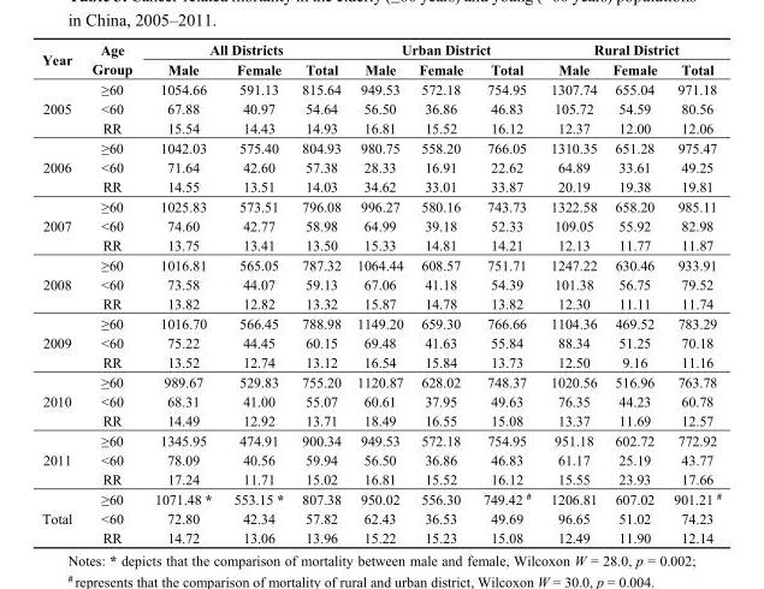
<table><thead><tr><td rowspan="2">Year</td><td rowspan="2">Age Group</td><td colspan="3">All Districts</td><td colspan="3">Urban District</td><td colspan="3">Rural District</td></tr><tr><td>Male</td><td>Female</td><td>Total</td><td>Male</td><td>Female</td><td>Total</td><td>Male</td><td>Female</td><td>Total</td></tr></thead><tbody><tr><td rowspan="3">2005</td><td>≥60</td><td>1054.66</td><td>591.13</td><td>815.64</td><td>949.53</td><td>572.18</td><td>754.95</td><td>1307.74</td><td>655.04</td><td>971.18</td></tr><tr><td>&lt;60</td><td>67.88</td><td>40.97</td><td>54.64</td><td>56.50</td><td>36.86</td><td>46.83</td><td>105.72</td><td>54.59</td><td>80.56</td></tr><tr><td>RR</td><td>15.54</td><td>14.43</td><td>14.93</td><td>16.81</td><td>15.52</td><td>16.12</td><td>12.37</td><td>12.00</td><td>12.06</td></tr><tr><td rowspan="3">2006</td><td>≥60</td><td>1042.03</td><td>575.40</td><td>804.93</td><td>980.75</td><td>558.20</td><td>766.05</td><td>1310.35</td><td>651.28</td><td>975.47</td></tr><tr><td>&lt;60</td><td>71.64</td><td>42.60</td><td>57.38</td><td>28.33</td><td>16.91</td><td>22.62</td><td>64.89</td><td>33.61</td><td>49.25</td></tr><tr><td>RR</td><td>14.55</td><td>13.51</td><td>14.03</td><td>34.62</td><td>33.01</td><td>33.87</td><td>20.19</td><td>19.38</td><td>19.81</td></tr><tr><td rowspan="3">2007</td><td>≥60</td><td>1025.83</td><td>573.51</td><td>796.08</td><td>996.27</td><td>580.16</td><td>743.73</td><td>1322.58</td><td>658.20</td><td>985.11</td></tr><tr><td>&lt;60</td><td>74.60</td><td>42.77</td><td>58.98</td><td>64.99</td><td>39.18</td><td>52.33</td><td>109.05</td><td>55.92</td><td>82.98</td></tr><tr><td>RR</td><td>13.75</td><td>13.41</td><td>13.50</td><td>15.33</td><td>14.81</td><td>14.21</td><td>12.13</td><td>11.77</td><td>11.87</td></tr><tr><td rowspan="3">2008</td><td>≥60</td><td>1016.81</td><td>565.05</td><td>787.32</td><td>1064.44</td><td>608.57</td><td>751.71</td><td>1247.22</td><td>630.46</td><td>933.91</td></tr><tr><td>&lt;60</td><td>73.58</td><td>44.07</td><td>59.13</td><td>67.06</td><td>41.18</td><td>54.39</td><td>101.38</td><td>56.75</td><td>79.52</td></tr><tr><td>RR</td><td>13.82</td><td>12.82</td><td>13.32</td><td>15.87</td><td>14.78</td><td>13.82</td><td>12.30</td><td>11.11</td><td>11.74</td></tr><tr><td rowspan="3">2009</td><td>≥60</td><td>1016.70</td><td>566.45</td><td>788.98</td><td>1149.20</td><td>659.30</td><td>766.66</td><td>1104.36</td><td>469.52</td><td>783.29</td></tr><tr><td>&lt;60</td><td>75.22</td><td>44.45</td><td>60.15</td><td>69.48</td><td>41.63</td><td>55.84</td><td>88.34</td><td>51.25</td><td>70.18</td></tr><tr><td>RR</td><td>13.52</td><td>12.74</td><td>13.12</td><td>16.54</td><td>15.84</td><td>13.73</td><td>12.50</td><td>9.16</td><td>11.16</td></tr><tr><td rowspan="3">2010</td><td>≥60</td><td>989.67</td><td>529.83</td><td>755.20</td><td>1120.87</td><td>628.02</td><td>748.37</td><td>1020.56</td><td>516.96</td><td>763.78</td></tr><tr><td>&lt;60</td><td>68.31</td><td>41.00</td><td>55.07</td><td>60.61</td><td>37.95</td><td>49.63</td><td>76.35</td><td>44.23</td><td>60.78</td></tr><tr><td>RR</td><td>14.49</td><td>12.92</td><td>13.71</td><td>18.49</td><td>16.55</td><td>15.08</td><td>13.37</td><td>11.69</td><td>12.57</td></tr><tr><td rowspan="3">2011</td><td>≥60</td><td>1345.95</td><td>474.91</td><td>900.34</td><td>949.53</td><td>572.18</td><td>754.95</td><td>951.18</td><td>602.72</td><td>772.92</td></tr><tr><td>&lt;60</td><td>78.09</td><td>40.56</td><td>59.94</td><td>56.50</td><td>36.86</td><td>46.83</td><td>61.17</td><td>25.19</td><td>43.77</td></tr><tr><td>RR</td><td>17.24</td><td>11.71</td><td>15.02</td><td>16.81</td><td>15.52</td><td>16.12</td><td>15.55</td><td>23.93</td><td>17.66</td></tr><tr><td rowspan="3">Total</td><td>≥60</td><td>1071.48 *</td><td>553.15 *</td><td>807.38</td><td>950.02</td><td>556.30</td><td>749.42 <sup>#</sup></td><td>1206.81</td><td>607.02</td><td>901.21 <sup>#</sup></td></tr><tr><td>&lt;60</td><td>72.80</td><td>42.34</td><td>57.82</td><td>62.43</td><td>36.53</td><td>49.69</td><td>96.65</td><td>51.02</td><td>74.23</td></tr><tr><td>RR</td><td>14.72</td><td>13.06</td><td>13.96</td><td>15.22</td><td>15.23</td><td>15.08</td><td>12.49</td><td>11.90</td><td>12.14</td></tr></tbody></table>